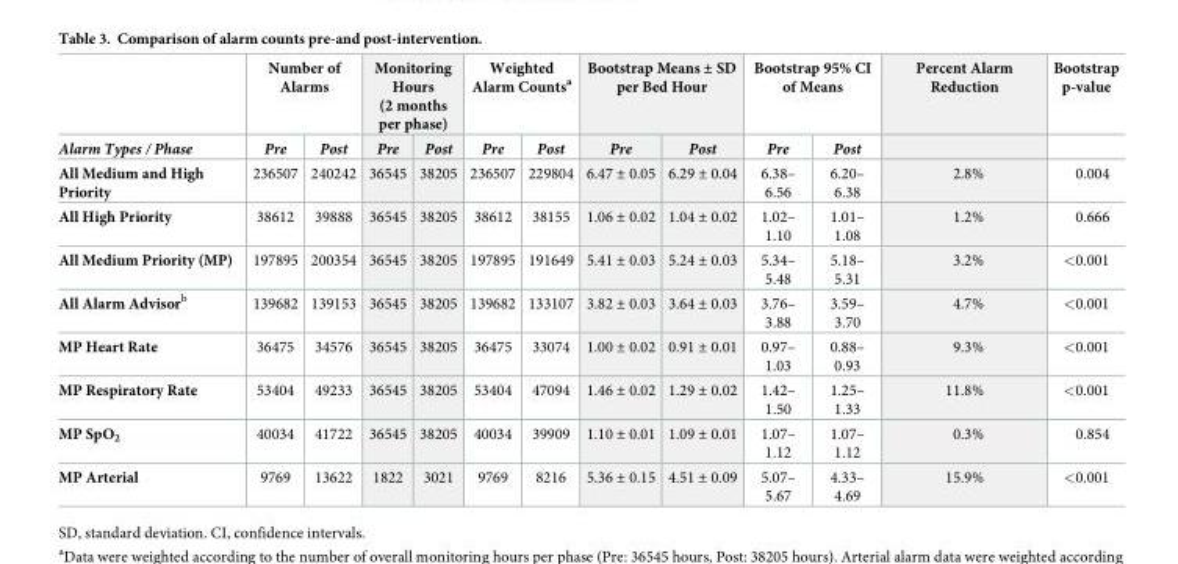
<table><thead><tr><td rowspan="2">Alarm Types / Phase</td><td colspan="2">Number of Alarms</td><td colspan="2">Monitoring Hours (2 months per phase)</td><td colspan="2">Weighted Alarm Counts<sup>a</sup></td><td colspan="2">Bootstrap Means ± SD per Bed Hour</td><td colspan="2">Bootstrap 95% CI of Means</td><td rowspan="2">Percent Alarm Reduction</td><td rowspan="2">Bootstrap p-value</td></tr><tr><td>Pre</td><td>Post</td><td>Pre</td><td>Post</td><td>Pre</td><td>Post</td><td>Pre</td><td>Post</td><td>Pre</td><td>Post</td></tr></thead><tbody><tr><td>All Medium and High Priority</td><td>236507</td><td>240242</td><td>36545</td><td>38205</td><td>236507</td><td>229804</td><td>6.47 ± 0.05</td><td>6.29 ± 0.04</td><td>6.38– 6.56</td><td>6.20– 6.38</td><td>2.8%</td><td>0.004</td></tr><tr><td>All High Priority</td><td>38612</td><td>39888</td><td>36545</td><td>38205</td><td>38612</td><td>38155</td><td>1.06 ± 0.02</td><td>1.04 ± 0.02</td><td>1.02– 1.10</td><td>1.01– 1.08</td><td>1.2%</td><td>0.666</td></tr><tr><td>All Medium Priority (MP)</td><td>197895</td><td>200354</td><td>36545</td><td>38205</td><td>197895</td><td>191649</td><td>5.41 ± 0.03</td><td>5.24 ± 0.03</td><td>5.34– 5.48</td><td>5.18– 5.31</td><td>3.2%</td><td>&lt;0.001</td></tr><tr><td>All Alarm Advisor<sup>b</sup></td><td>139682</td><td>139153</td><td>36545</td><td>38205</td><td>139682</td><td>133107</td><td>3.82 ± 0.03</td><td>3.64 ± 0.03</td><td>3.76– 3.88</td><td>3.59– 3.70</td><td>4.7%</td><td>&lt;0.001</td></tr><tr><td>MP Heart Rate</td><td>36475</td><td>34576</td><td>36545</td><td>38205</td><td>36475</td><td>33074</td><td>1.00 ± 0.02</td><td>0.91 ± 0.01</td><td>0.97– 1.03</td><td>0.88– 0.93</td><td>9.3%</td><td>&lt;0.001</td></tr><tr><td>MP Respiratory Rate</td><td>53404</td><td>49233</td><td>36545</td><td>38205</td><td>53404</td><td>47094</td><td>1.46 ± 0.02</td><td>1.29 ± 0.02</td><td>1.42– 1.50</td><td>1.25– 1.33</td><td>11.8%</td><td>&lt;0.001</td></tr><tr><td>MP SpO<sub>2</sub></td><td>40034</td><td>41722</td><td>36545</td><td>38205</td><td>40034</td><td>39909</td><td>1.10 ± 0.01</td><td>1.09 ± 0.01</td><td>1.07– 1.12</td><td>1.07– 1.12</td><td>0.3%</td><td>0.854</td></tr><tr><td>MP Arterial</td><td>9769</td><td>13622</td><td>1822</td><td>3021</td><td>9769</td><td>8216</td><td>5.36 ± 0.15</td><td>4.51 ± 0.09</td><td>5.07– 5.67</td><td>4.33– 4.69</td><td>15.9%</td><td>&lt;0.001</td></tr></tbody></table>